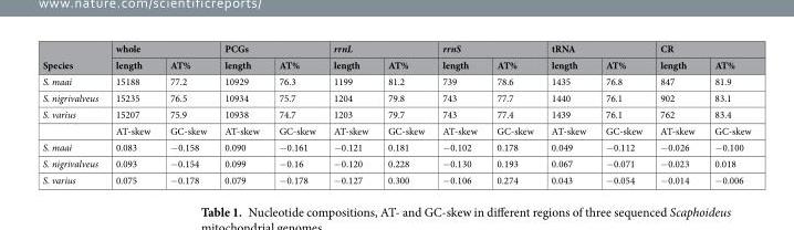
<table><thead><tr><td rowspan="2">Species</td><td colspan="2">whole</td><td colspan="2">PCGs</td><td colspan="2">rrnL</td><td colspan="2">rrnS</td><td colspan="2">tRNA</td><td colspan="2">CR</td></tr><tr><td>length</td><td>AT%</td><td>length</td><td>AT%</td><td>length</td><td>AT%</td><td>length</td><td>AT%</td><td>length</td><td>AT%</td><td>length</td><td>AT%</td></tr></thead><tbody><tr><td>S. maai</td><td>15188</td><td>77.2</td><td>10929</td><td>76.3</td><td>1199</td><td>81.2</td><td>739</td><td>78.6</td><td>1435</td><td>76.8</td><td>847</td><td>81.9</td></tr><tr><td>S. nigrivalveus</td><td>15235</td><td>76.5</td><td>10934</td><td>75.7</td><td>1204</td><td>79.8</td><td>743</td><td>77.7</td><td>1440</td><td>76.1</td><td>902</td><td>83.1</td></tr><tr><td rowspan="2">S. varius</td><td>15207</td><td>75.9</td><td>10938</td><td>74.7</td><td>1203</td><td>79.7</td><td>743</td><td>77.4</td><td>1439</td><td>76.1</td><td>762</td><td>83.4</td></tr><tr><td>AT-skew</td><td>GC-skew</td><td>AT-skew</td><td>GC-skew</td><td>AT-skew</td><td>GC-skew</td><td>AT-skew</td><td>GC-skew</td><td>AT-skew</td><td>GC-skew</td><td>AT-skew</td><td>GC-skew</td></tr><tr><td>S. maai</td><td>0.083</td><td>−0.158</td><td>0.090</td><td>−0.161</td><td>−0.121</td><td>0.181</td><td>−0.102</td><td>0.178</td><td>0.049</td><td>−0.112</td><td>−0.026</td><td>−0.100</td></tr><tr><td>S. nigrivalveus</td><td>0.093</td><td>−0.154</td><td>0.099</td><td>−0.16</td><td>−0.120</td><td>0.228</td><td>−0.130</td><td>0.193</td><td>0.067</td><td>−0.071</td><td>−0.023</td><td>0.018</td></tr><tr><td>S. varius</td><td>0.075</td><td>−0.178</td><td>0.079</td><td>−0.178</td><td>−0.127</td><td>0.300</td><td>−0.106</td><td>0.274</td><td>0.043</td><td>−0.054</td><td>−0.014</td><td>−0.006</td></tr></tbody></table>